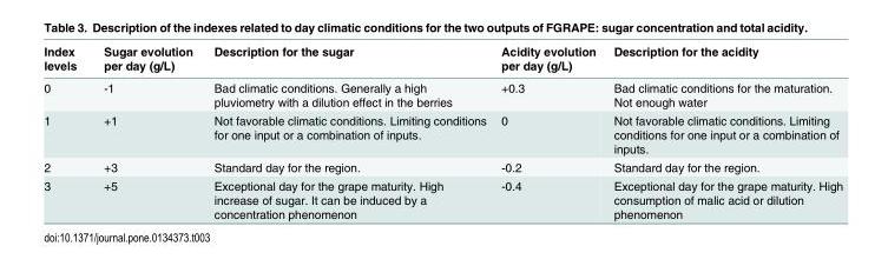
<table><thead><tr><td>Index levels</td><td>Sugar evolution per day (g/L)</td><td>Description for the sugar</td><td>Acidity evolution per day (g/L)</td><td>Description for the acidity</td></tr></thead><tbody><tr><td>0</td><td>-1</td><td>Bad climatic conditions. Generally a high pluviometry with a dilution effect in the berries</td><td>+0.3</td><td>Bad climatic conditions for the maturation. Not enough water</td></tr><tr><td>1</td><td>+1</td><td>Not favorable climatic conditions. Limiting conditions for one input or a combination of inputs.</td><td>0</td><td>Not favorable climatic conditions. Limiting conditions for one input or a combination of inputs.</td></tr><tr><td>2</td><td>+3</td><td>Standard day for the region.</td><td>-0.2</td><td>Standard day for the region.</td></tr><tr><td>3</td><td>+5</td><td>Exceptional day for the grape maturity. High increase of sugar. It can be induced by a concentration phenomenon</td><td>-0.4</td><td>Exceptional day for the grape maturity. High consumption of malic acid or dilution phenomenon</td></tr></tbody></table>